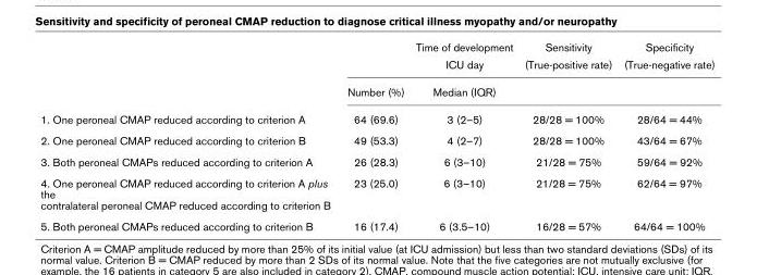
<table><thead><tr><td></td><td></td><td>Time of development</td><td>Sensitivity</td><td>Specificity</td></tr></thead><tbody><tr><td></td><td></td><td>ICU day</td><td>(True-positive rate)</td><td>(True-negative rate)</td></tr><tr><td></td><td>Number (%)</td><td>Median (IQR)</td><td></td><td></td></tr><tr><td>1. One peroneal CMAP reduced according to criterion A</td><td>64 (69.6)</td><td>3 (2–5)</td><td>28/28 = 100%</td><td>28/64 = 44%</td></tr><tr><td>2. One peroneal CMAP reduced according to criterion B</td><td>49 (53.3)</td><td>4 (2–7)</td><td>28/28 = 100%</td><td>43/64 = 67%</td></tr><tr><td>3. Both peroneal CMAPs reduced according to criterion A</td><td>26 (28.3)</td><td>6 (3–10)</td><td>21/28 = 75%</td><td>59/64 = 92%</td></tr><tr><td>4. One peroneal CMAP reduced according to criterion A plus the contralateral peroneal CMAP reduced according to criterion B</td><td>23 (25.0)</td><td>6 (3–10)</td><td>21/28 = 75%</td><td>62/64 = 97%</td></tr><tr><td>5. Both peroneal CMAPs reduced according to criterion B</td><td>16 (17.4)</td><td>6 (3.5–10)</td><td>16/28 = 57%</td><td>64/64 = 100%</td></tr></tbody></table>